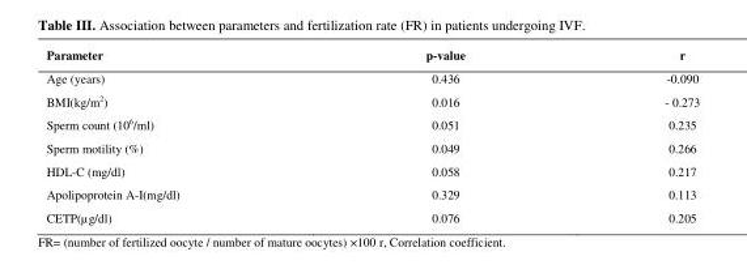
<table><thead><tr><td>Parameter</td><td>p-value</td><td>r</td></tr></thead><tbody><tr><td>Age (years)</td><td>0.436</td><td>-0.090</td></tr><tr><td>BMI(kg/m<sup>2</sup>)</td><td>0.016</td><td>- 0.273</td></tr><tr><td>Sperm count (10<sup>6</sup>/ml)</td><td>0.051</td><td>0.235</td></tr><tr><td>Sperm motility (%)</td><td>0.049</td><td>0.266</td></tr><tr><td>HDL-C (mg/dl)</td><td>0.058</td><td>0.217</td></tr><tr><td>Apolipoprotein A-I(mg/dl)</td><td>0.329</td><td>0.113</td></tr><tr><td>CETP(µg/dl)</td><td>0.076</td><td>0.205</td></tr></tbody></table>